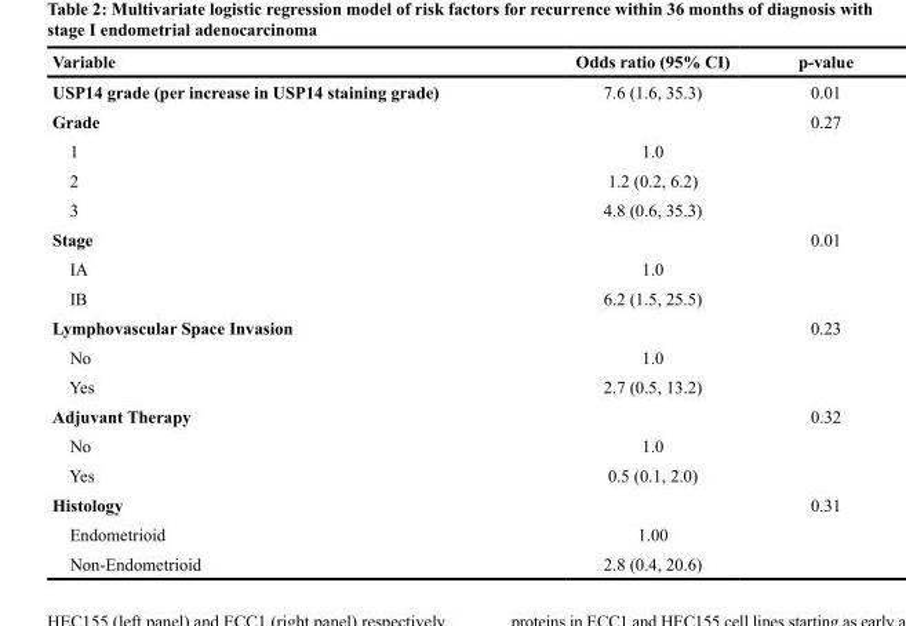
<table><thead><tr><td>Variable</td><td>Odds ratio (95% CI)</td><td>p-value</td></tr></thead><tbody><tr><td>USP14 grade (per increase in USP14 staining grade)</td><td>7.6 (1.6, 35.3)</td><td>0.01</td></tr><tr><td>Grade</td><td></td><td>0.27</td></tr><tr><td>1</td><td>1.0</td><td></td></tr><tr><td>2</td><td>1.2 (0.2, 6.2)</td><td></td></tr><tr><td>3</td><td>4.8 (0.6, 35.3)</td><td></td></tr><tr><td>Stage</td><td></td><td>0.01</td></tr><tr><td>IA</td><td>1.0</td><td></td></tr><tr><td>IB</td><td>6.2 (1.5, 25.5)</td><td></td></tr><tr><td>Lymphovascular Space Invasion</td><td></td><td>0.23</td></tr><tr><td>No</td><td>1.0</td><td></td></tr><tr><td>Yes</td><td>2.7 (0.5, 13.2)</td><td></td></tr><tr><td>Adjuvant Therapy</td><td></td><td>0.32</td></tr><tr><td>No</td><td>1.0</td><td></td></tr><tr><td>Yes</td><td>0.5 (0.1, 2.0)</td><td></td></tr><tr><td>Histology</td><td></td><td>0.31</td></tr><tr><td>Endometrioid</td><td>1.00</td><td></td></tr><tr><td>Non-Endometrioid</td><td>2.8 (0.4, 20.6)</td><td></td></tr></tbody></table>